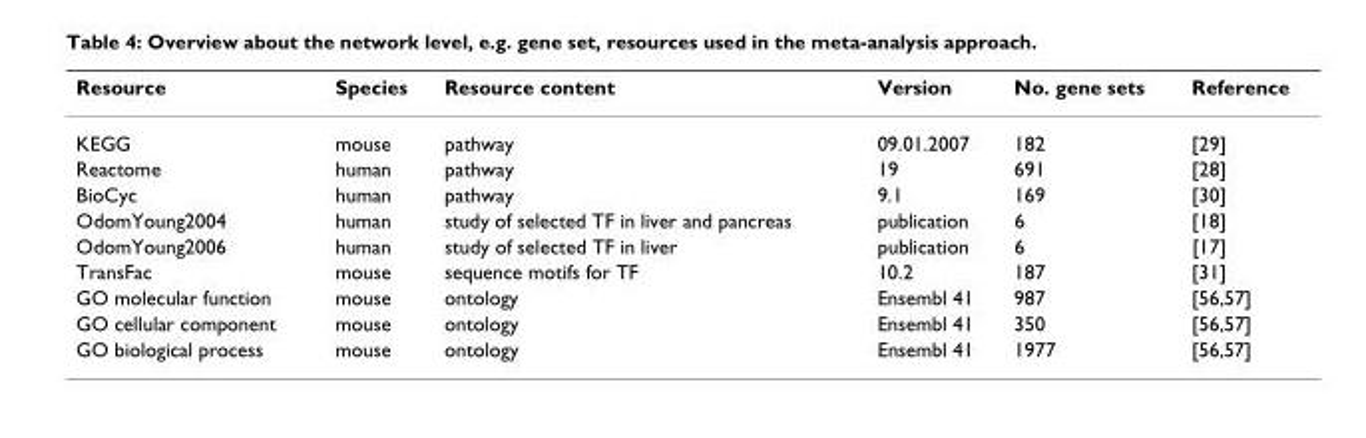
<table><thead><tr><td>Resource</td><td>Species</td><td>Resource content</td><td>Version</td><td>No. gene sets</td><td>Reference</td></tr></thead><tbody><tr><td>KEGG</td><td>mouse</td><td>pathway</td><td>09.01.2007</td><td>182</td><td>[29]</td></tr><tr><td>Reactome</td><td>human</td><td>pathway</td><td>19</td><td>691</td><td>[28]</td></tr><tr><td>BioCyc</td><td>human</td><td>pathway</td><td>9.1</td><td>169</td><td>[30]</td></tr><tr><td>OdomYoung2004</td><td>human</td><td>study of selected TF in liver and pancreas</td><td>publication</td><td>6</td><td>[18]</td></tr><tr><td>OdomYoung2006</td><td>human</td><td>study of selected TF in liver</td><td>publication</td><td>6</td><td>[17]</td></tr><tr><td>TransFac</td><td>mouse</td><td>sequence motifs for TF</td><td>10.2</td><td>187</td><td>[31]</td></tr><tr><td>GO molecular function</td><td>mouse</td><td>ontology</td><td>Ensembl 41</td><td>987</td><td>[56,57]</td></tr><tr><td>GO cellular component</td><td>mouse</td><td>ontology</td><td>Ensembl 41</td><td>350</td><td>[56,57]</td></tr><tr><td>GO biological process</td><td>mouse</td><td>ontology</td><td>Ensembl 41</td><td>1977</td><td>[56,57]</td></tr></tbody></table>